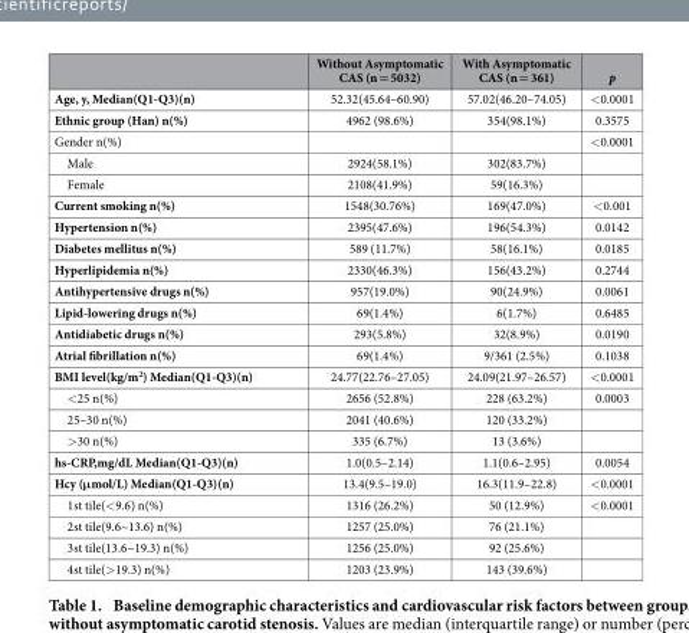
<table><thead><tr><td></td><td>Without Asymptomatic CAS (n = 5032)</td><td>With Asymptomatic CAS (n = 361)</td><td>p</td></tr></thead><tbody><tr><td>Age, y, Median(Q1-Q3)(n)</td><td>52.32(45.64–60.90)</td><td>57.02(46.20–74.05)</td><td>&lt; 0.0001</td></tr><tr><td>Ethnic group (Han) n(%)</td><td>4962 (98.6%)</td><td>354(98.1%)</td><td>0.3575</td></tr><tr><td>Gender n(%)</td><td></td><td></td><td>&lt; 0.0001</td></tr><tr><td>Male</td><td>2924(58.1%)</td><td>302(83.7%)</td><td></td></tr><tr><td>Female</td><td>2108(41.9%)</td><td>59(16.3%)</td><td></td></tr><tr><td>Current smoking n(%)</td><td>1548(30.76%)</td><td>169(47.0%)</td><td>&lt; 0.001</td></tr><tr><td>Hypertension n(%)</td><td>2395(47.6%)</td><td>196(54.3%)</td><td>0.0142</td></tr><tr><td>Diabetes mellitus n(%)</td><td>589 (11.7%)</td><td>58(16.1%)</td><td>0.0185</td></tr><tr><td>Hyperlipidemia n(%)</td><td>2330(46.3%)</td><td>156(43.2%)</td><td>0.2744</td></tr><tr><td>Antihypertensive drugs n(%)</td><td>957(19.0%)</td><td>90(24.9%)</td><td>0.0061</td></tr><tr><td>Lipid-lowering drugs n(%)</td><td>69(1.4%)</td><td>6(1.7%)</td><td>0.6485</td></tr><tr><td>Antidiabetic drugs n(%)</td><td>293(5.8%)</td><td>32(8.9%)</td><td>0.0190</td></tr><tr><td>Atrial fibrillation n(%)</td><td>69(1.4%)</td><td>9/361 (2.5%)</td><td>0.1038</td></tr><tr><td>BMI level(kg/m<sup>2</sup>) Median(Q1-Q3)(n)</td><td>24.77(22.76–27.05)</td><td>24.09(21.97–26.57)</td><td>&lt; 0.0001</td></tr><tr><td>&lt; 25 n(%)</td><td>2656 (52.8%)</td><td>228 (63.2%)</td><td>0.0003</td></tr><tr><td>25–30 n(%)</td><td>2041 (40.6%)</td><td>120 (33.2%)</td><td></td></tr><tr><td>&gt; 30 n(%)</td><td>335 (6.7%)</td><td>13 (3.6%)</td><td></td></tr><tr><td>hs-CRP,mg/dL Median(Q1-Q3)(n)</td><td>1.0(0.5–2.14)</td><td>1.1(0.6–2.95)</td><td>0.0054</td></tr><tr><td>Hcy (μmol/L) Median(Q1-Q3)(n)</td><td>13.4(9.5–19.0)</td><td>16.3(11.9–22.8)</td><td>&lt; 0.0001</td></tr><tr><td>1st tile(&lt; 9.6) n(%)</td><td>1316 (26.2%)</td><td>50 (12.9%)</td><td>&lt; 0.0001</td></tr><tr><td>2st tile(9.6~13.6) n(%)</td><td>1257 (25.0%)</td><td>76 (21.1%)</td><td></td></tr><tr><td>3st tile(13.6~19.3) n(%)</td><td>1256 (25.0%)</td><td>92 (25.6%)</td><td></td></tr><tr><td>4st tile(&gt; 19.3) n(%)</td><td>1203 (23.9%)</td><td>143 (39.6%)</td><td></td></tr></tbody></table>